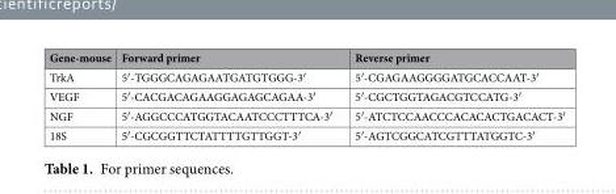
<table><thead><tr><td>Gene-mouse</td><td>Forward primer</td><td>Reverse primer</td></tr></thead><tbody><tr><td>TrkA</td><td>5′-TGGGCAGAGAATGATGTGGG-3′</td><td>5′-CGAGAAGGGGATGCACCAAT-3′</td></tr><tr><td>VEGF</td><td>5′-CACGACAGAAGGAGAGCAGAA-3′</td><td>5′-CGCTGGTAGACGTCCATG-3′</td></tr><tr><td>NGF</td><td>5′-AGGCCCATGGTACAATCCCTTTCA-3′</td><td>5′-ATCTCCAACCCACACACTGACACT-3′</td></tr><tr><td>18S</td><td>5′-CGCGGTTCTATTTTGTTGGT-3′</td><td>5′-AGTCGGCATCGTTTATGGTC-3′</td></tr></tbody></table>